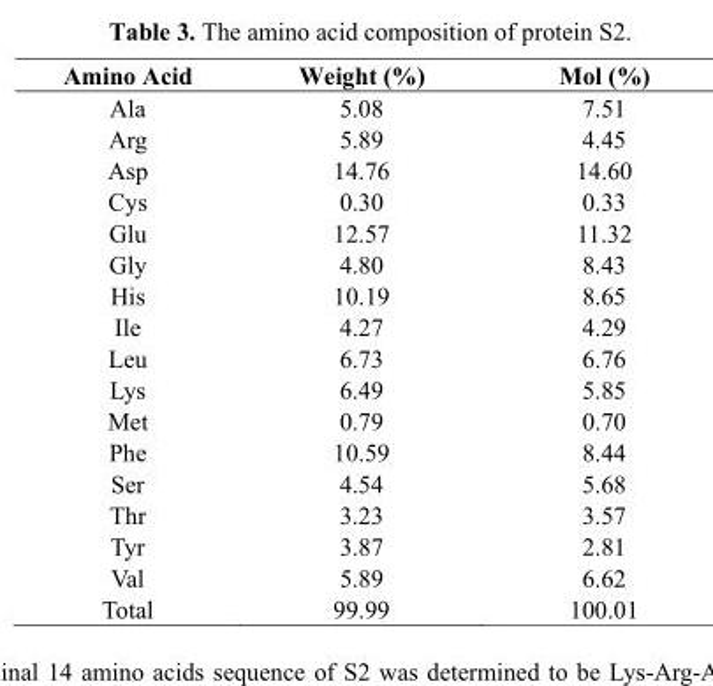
<table><thead><tr><td>Amino Acid</td><td>Weight (%)</td><td>Mol (%)</td></tr></thead><tbody><tr><td>Ala</td><td>5.08</td><td>7.51</td></tr><tr><td>Arg</td><td>5.89</td><td>4.45</td></tr><tr><td>Asp</td><td>14.76</td><td>14.60</td></tr><tr><td>Cys</td><td>0.30</td><td>0.33</td></tr><tr><td>Glu</td><td>12.57</td><td>11.32</td></tr><tr><td>Gly</td><td>4.80</td><td>8.43</td></tr><tr><td>His</td><td>10.19</td><td>8.65</td></tr><tr><td>Ile</td><td>4.27</td><td>4.29</td></tr><tr><td>Leu</td><td>6.73</td><td>6.76</td></tr><tr><td>Lys</td><td>6.49</td><td>5.85</td></tr><tr><td>Met</td><td>0.79</td><td>0.70</td></tr><tr><td>Phe</td><td>10.59</td><td>8.44</td></tr><tr><td>Ser</td><td>4.54</td><td>5.68</td></tr><tr><td>Thr</td><td>3.23</td><td>3.57</td></tr><tr><td>Tyr</td><td>3.87</td><td>2.81</td></tr><tr><td>Val</td><td>5.89</td><td>6.62</td></tr><tr><td>Total</td><td>99.99</td><td>100.01</td></tr></tbody></table>